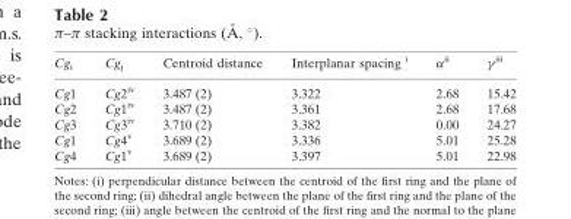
<table><thead><tr><td>Cg<sub>i</sub></td><td>Cg<sub>j</sub></td><td>Centroid distance</td><td>Interplanar spacing <sup>i</sup></td><td>α<sup>ii</sup></td><td>γ<sup>iii</sup></td></tr></thead><tbody><tr><td>Cg1</td><td>Cg2<sup>iv</sup></td><td>3.487 (2)</td><td>3.322</td><td>2.68</td><td>15.42</td></tr><tr><td>Cg2</td><td>Cg1<sup>iv</sup></td><td>3.487 (2)</td><td>3.361</td><td>2.68</td><td>17.68</td></tr><tr><td>Cg3</td><td>Cg3<sup>iv</sup></td><td>3.710 (2)</td><td>3.382</td><td>0.00</td><td>24.27</td></tr><tr><td>Cg1</td><td>Cg4<sup>v</sup></td><td>3.689 (2)</td><td>3.336</td><td>5.01</td><td>25.28</td></tr><tr><td>Cg4</td><td>Cg1<sup>v</sup></td><td>3.689 (2)</td><td>3.397</td><td>5.01</td><td>22.98</td></tr></tbody></table>